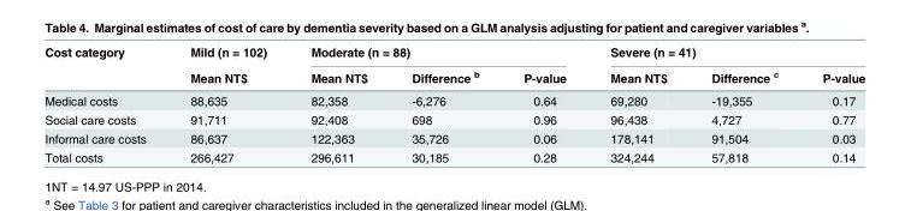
<table><thead><tr><td rowspan="2">Cost category</td><td rowspan="2">Mild (n = 102) Mean NT$</td><td colspan="3">Moderate (n = 88)</td><td colspan="3">Severe (n = 41)</td></tr><tr><td>Mean NT$</td><td>Difference <sup>b</sup></td><td>P-value</td><td>Mean NT$</td><td>Difference <sup>c</sup></td><td>P-value</td></tr></thead><tbody><tr><td>Medical costs</td><td>88,635</td><td>82,358</td><td>-6,276</td><td>0.64</td><td>69,280</td><td>-19,355</td><td>0.17</td></tr><tr><td>Social care costs</td><td>91,711</td><td>92,408</td><td>698</td><td>0.96</td><td>96,438</td><td>4,727</td><td>0.77</td></tr><tr><td>Informal care costs</td><td>86,637</td><td>122,363</td><td>35,726</td><td>0.06</td><td>178,141</td><td>91,504</td><td>0.03</td></tr><tr><td>Total costs</td><td>266,427</td><td>296,611</td><td>30,185</td><td>0.28</td><td>324,244</td><td>57,818</td><td>0.14</td></tr></tbody></table>